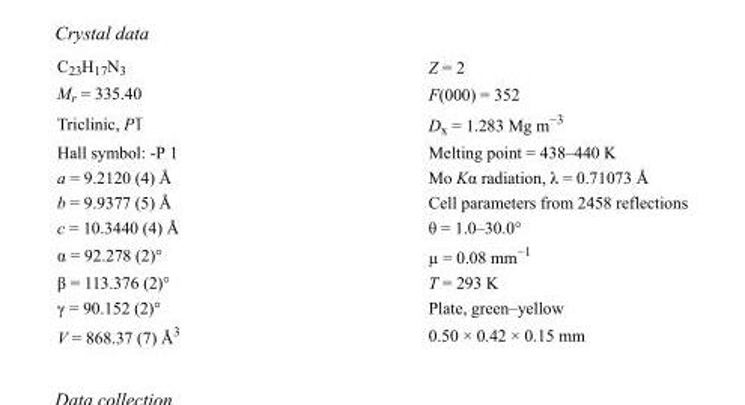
<table><tbody><tr><td>C<sub>23</sub>H<sub>17</sub>N<sub>3</sub></td><td>Z = 2</td></tr><tr><td>M<sub>r</sub> = 335.40</td><td>F(000) = 352</td></tr><tr><td>Triclinic, P1</td><td>D<sub>x</sub> = 1.283 Mg m<sup>−3</sup></td></tr><tr><td>Hall symbol: -P 1</td><td>Melting point = 438–440 K</td></tr><tr><td>a = 9.2120 (4) Å</td><td>Mo Kα radiation, λ = 0.71073 Å</td></tr><tr><td>b = 9.9377 (5) Å</td><td>Cell parameters from 2458 reflections</td></tr><tr><td>c = 10.3440 (4) Å</td><td>θ = 1.0–30.0°</td></tr><tr><td>α = 92.278 (2)°</td><td>µ = 0.08 mm<sup>−1</sup></td></tr><tr><td>β = 113.376 (2)°</td><td>T = 293 K</td></tr><tr><td>γ = 90.152 (2)°</td><td>Plate, green–yellow</td></tr><tr><td>V = 868.37 (7) Å<sup>3</sup></td><td>0.50 × 0.42 × 0.15 mm</td></tr></tbody></table>